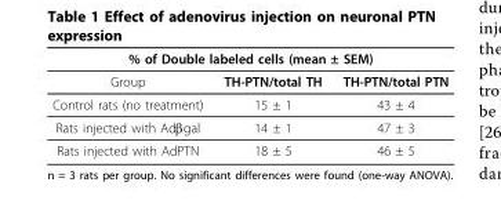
<table><thead><tr><td colspan="3">% of Double labeled cells (mean ± SEM)</td></tr><tr><td>Group</td><td>TH-PTN/total TH</td><td>TH-PTN/total PTN</td></tr></thead><tbody><tr><td>Control rats (no treatment)</td><td>15 ± 1</td><td>43 ± 4</td></tr><tr><td>Rats injected with Adβgal</td><td>14 ± 1</td><td>47 ± 3</td></tr><tr><td>Rats injected with AdPTN</td><td>18 ± 5</td><td>46 ± 5</td></tr></tbody></table>